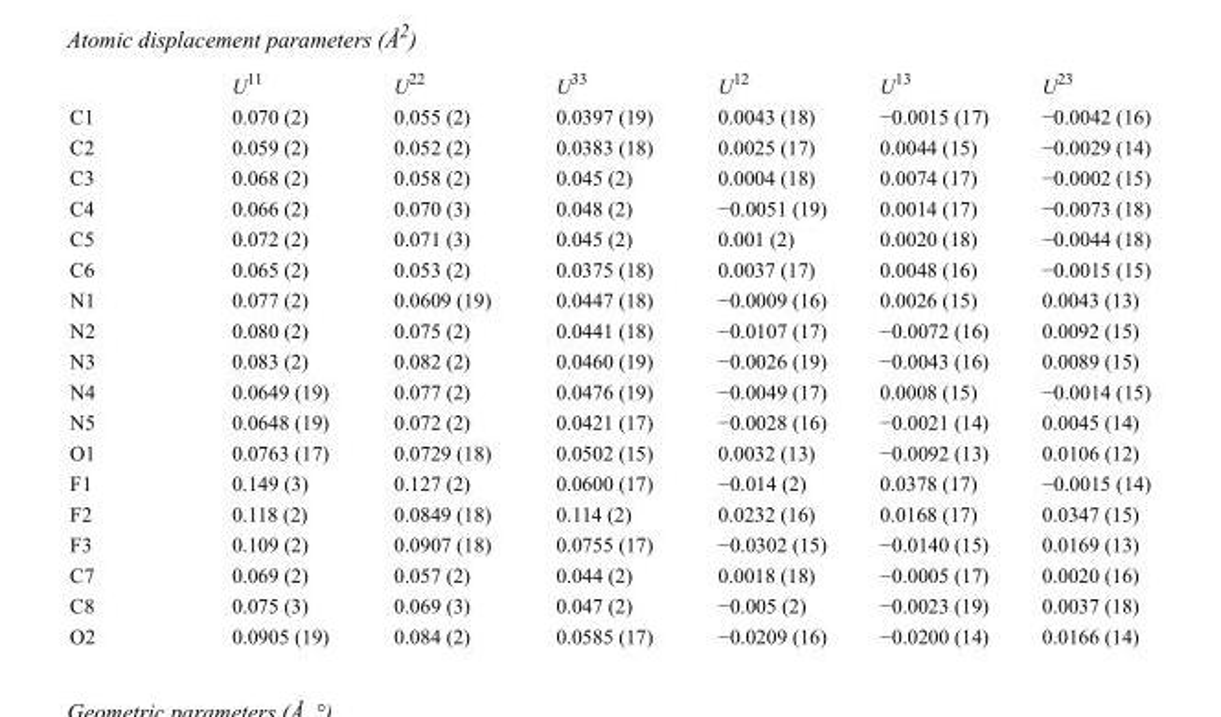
<table><thead><tr><td></td><td>U<sup>11</sup></td><td>U<sup>22</sup></td><td>U<sup>33</sup></td><td>U<sup>12</sup></td><td>U<sup>13</sup></td><td>U<sup>23</sup></td></tr></thead><tbody><tr><td>C1</td><td>0.070 (2)</td><td>0.055 (2)</td><td>0.0397 (19)</td><td>0.0043 (18)</td><td>−0.0015 (17)</td><td>−0.0042 (16)</td></tr><tr><td>C2</td><td>0.059 (2)</td><td>0.052 (2)</td><td>0.0383 (18)</td><td>0.0025 (17)</td><td>0.0044 (15)</td><td>−0.0029 (14)</td></tr><tr><td>C3</td><td>0.068 (2)</td><td>0.058 (2)</td><td>0.045 (2)</td><td>0.0004 (18)</td><td>0.0074 (17)</td><td>−0.0002 (15)</td></tr><tr><td>C4</td><td>0.066 (2)</td><td>0.070 (3)</td><td>0.048 (2)</td><td>−0.0051 (19)</td><td>0.0014 (17)</td><td>−0.0073 (18)</td></tr><tr><td>C5</td><td>0.072 (2)</td><td>0.071 (3)</td><td>0.045 (2)</td><td>0.001 (2)</td><td>0.0020 (18)</td><td>−0.0044 (18)</td></tr><tr><td>C6</td><td>0.065 (2)</td><td>0.053 (2)</td><td>0.0375 (18)</td><td>0.0037 (17)</td><td>0.0048 (16)</td><td>−0.0015 (15)</td></tr><tr><td>N1</td><td>0.077 (2)</td><td>0.0609 (19)</td><td>0.0447 (18)</td><td>−0.0009 (16)</td><td>0.0026 (15)</td><td>0.0043 (13)</td></tr><tr><td>N2</td><td>0.080 (2)</td><td>0.075 (2)</td><td>0.0441 (18)</td><td>−0.0107 (17)</td><td>−0.0072 (16)</td><td>0.0092 (15)</td></tr><tr><td>N3</td><td>0.083 (2)</td><td>0.082 (2)</td><td>0.0460 (19)</td><td>−0.0026 (19)</td><td>−0.0043 (16)</td><td>0.0089 (15)</td></tr><tr><td>N4</td><td>0.0649 (19)</td><td>0.077 (2)</td><td>0.0476 (19)</td><td>−0.0049 (17)</td><td>0.0008 (15)</td><td>−0.0014 (15)</td></tr><tr><td>N5</td><td>0.0648 (19)</td><td>0.072 (2)</td><td>0.0421 (17)</td><td>−0.0028 (16)</td><td>−0.0021 (14)</td><td>0.0045 (14)</td></tr><tr><td>O1</td><td>0.0763 (17)</td><td>0.0729 (18)</td><td>0.0502 (15)</td><td>0.0032 (13)</td><td>−0.0092 (13)</td><td>0.0106 (12)</td></tr><tr><td>F1</td><td>0.149 (3)</td><td>0.127 (2)</td><td>0.0600 (17)</td><td>−0.014 (2)</td><td>0.0378 (17)</td><td>−0.0015 (14)</td></tr><tr><td>F2</td><td>0.118 (2)</td><td>0.0849 (18)</td><td>0.114 (2)</td><td>0.0232 (16)</td><td>0.0168 (17)</td><td>0.0347 (15)</td></tr><tr><td>F3</td><td>0.109 (2)</td><td>0.0907 (18)</td><td>0.0755 (17)</td><td>−0.0302 (15)</td><td>−0.0140 (15)</td><td>0.0169 (13)</td></tr><tr><td>C7</td><td>0.069 (2)</td><td>0.057 (2)</td><td>0.044 (2)</td><td>0.0018 (18)</td><td>−0.0005 (17)</td><td>0.0020 (16)</td></tr><tr><td>C8</td><td>0.075 (3)</td><td>0.069 (3)</td><td>0.047 (2)</td><td>−0.005 (2)</td><td>−0.0023 (19)</td><td>0.0037 (18)</td></tr><tr><td>O2</td><td>0.0905 (19)</td><td>0.084 (2)</td><td>0.0585 (17)</td><td>−0.0209 (16)</td><td>−0.0200 (14)</td><td>0.0166 (14)</td></tr></tbody></table>